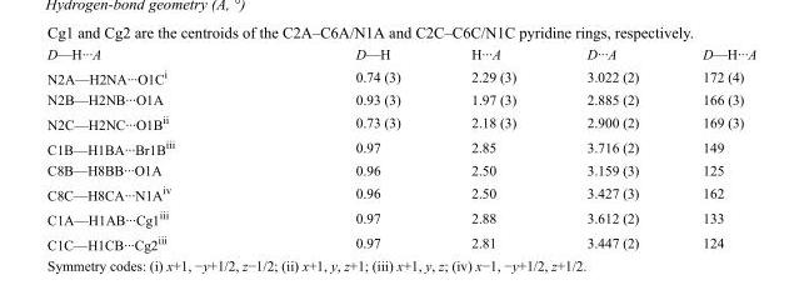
<table><tbody><tr><td>D—H···A</td><td>D—H</td><td>H···A</td><td>D···A</td><td>D—H···A</td></tr><tr><td>N2A—H2NA···O1C<sup>i</sup></td><td>0.74 (3)</td><td>2.29 (3)</td><td>3.022 (2)</td><td>172 (4)</td></tr><tr><td>N2B—H2NB···O1A</td><td>0.93 (3)</td><td>1.97 (3)</td><td>2.885 (2)</td><td>166 (3)</td></tr><tr><td>N2C—H2NC···O1B<sup>ii</sup></td><td>0.73 (3)</td><td>2.18 (3)</td><td>2.900 (2)</td><td>169 (3)</td></tr><tr><td>C1B—H1BA···Br1B<sup>iii</sup></td><td>0.97</td><td>2.85</td><td>3.716 (2)</td><td>149</td></tr><tr><td>C8B—H8BB···O1A</td><td>0.96</td><td>2.50</td><td>3.159 (3)</td><td>125</td></tr><tr><td>C8C—H8CA···N1A<sup>iv</sup></td><td>0.96</td><td>2.50</td><td>3.427 (3)</td><td>162</td></tr><tr><td>C1A—H1AB···Cg1<sup>iii</sup></td><td>0.97</td><td>2.88</td><td>3.612 (2)</td><td>133</td></tr><tr><td>C1C—H1CB···Cg2<sup>iii</sup></td><td>0.97</td><td>2.81</td><td>3.447 (2)</td><td>124</td></tr></tbody></table>